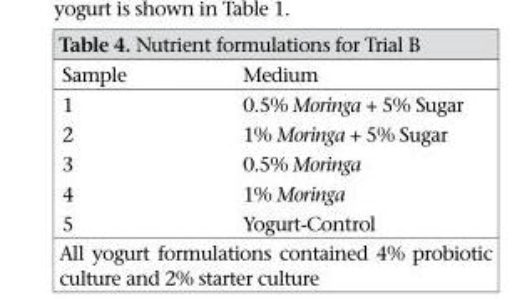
<table><thead><tr><td>Sample</td><td>Medium</td></tr></thead><tbody><tr><td>1</td><td>0.5% Moringa + 5% Sugar</td></tr><tr><td>2</td><td>1% Moringa + 5% Sugar</td></tr><tr><td>3</td><td>0.5% Moringa</td></tr><tr><td>4</td><td>1% Moringa</td></tr><tr><td>5</td><td>Yogurt-Control</td></tr></tbody></table>